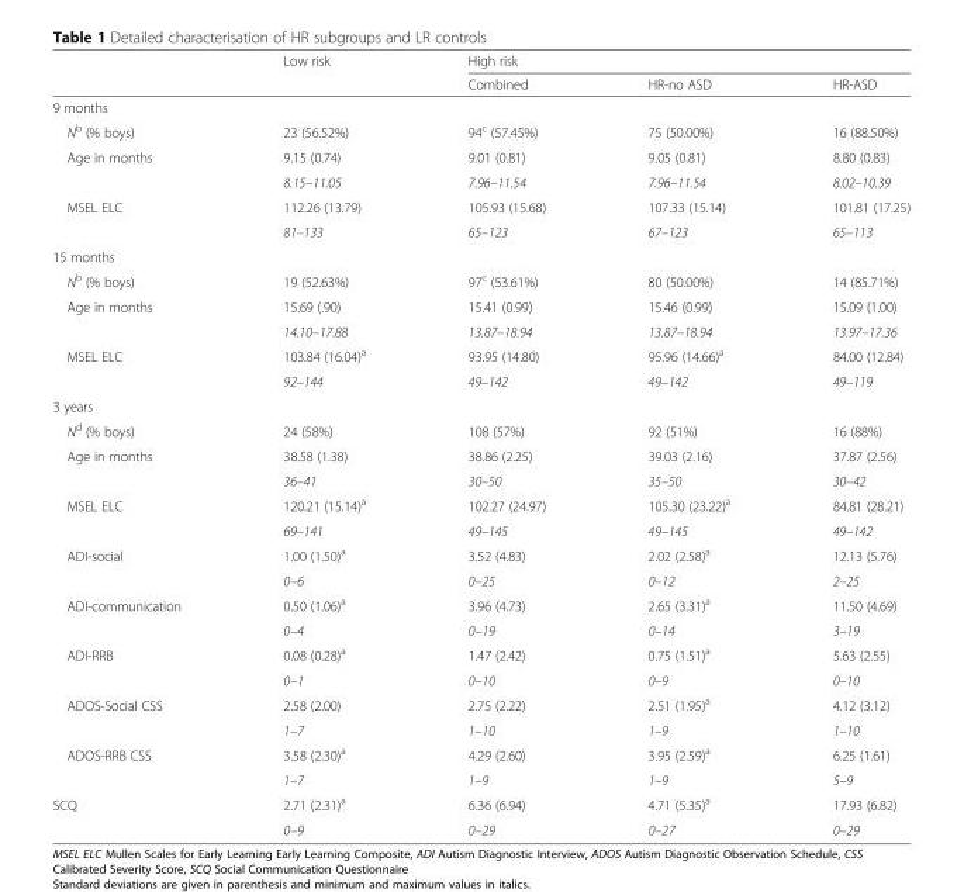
<table><thead><tr><td rowspan="2"></td><td rowspan="2">Low risk</td><td colspan="3">High risk</td></tr><tr><td>Combined</td><td>HR-no ASD</td><td>HR-ASD</td></tr></thead><tbody><tr><td colspan="5">9 months</td></tr><tr><td>N<sup>b</sup> (% boys)</td><td>23 (56.52%)</td><td>94<sup>c</sup> (57.45%)</td><td>75 (50.00%)</td><td>16 (88.50%)</td></tr><tr><td rowspan="2">Age in months</td><td>9.15 (0.74)</td><td>9.01 (0.81)</td><td>9.05 (0.81)</td><td>8.80 (0.83)</td></tr><tr><td>8.15–11.05</td><td>7.96–11.54</td><td>7.96–11.54</td><td>8.02–10.39</td></tr><tr><td rowspan="2">MSEL ELC</td><td>112.26 (13.79)</td><td>105.93 (15.68)</td><td>107.33 (15.14)</td><td>101.81 (17.25)</td></tr><tr><td>81–133</td><td>65–123</td><td>67–123</td><td>65–113</td></tr><tr><td colspan="5">15 months</td></tr><tr><td>N<sup>b</sup> (% boys)</td><td>19 (52.63%)</td><td>97<sup>c</sup> (53.61%)</td><td>80 (50.00%)</td><td>14 (85.71%)</td></tr><tr><td rowspan="2">Age in months</td><td>15.69 (.90)</td><td>15.41 (0.99)</td><td>15.46 (0.99)</td><td>15.09 (1.00)</td></tr><tr><td>14.10–17.88</td><td>13.87–18.94</td><td>13.87–18.94</td><td>13.97–17.36</td></tr><tr><td rowspan="2">MSEL ELC</td><td>103.84 (16.04)<sup>a</sup></td><td>93.95 (14.80)</td><td>95.96 (14.66)<sup>a</sup></td><td>84.00 (12.84)</td></tr><tr><td>92–144</td><td>49–142</td><td>49–142</td><td>49–119</td></tr><tr><td colspan="5">3 years</td></tr><tr><td>N<sup>d</sup> (% boys)</td><td>24 (58%)</td><td>108 (57%)</td><td>92 (51%)</td><td>16 (88%)</td></tr><tr><td rowspan="2">Age in months</td><td>38.58 (1.38)</td><td>38.86 (2.25)</td><td>39.03 (2.16)</td><td>37.87 (2.56)</td></tr><tr><td>36–41</td><td>30–50</td><td>35–50</td><td>30–42</td></tr><tr><td rowspan="2">MSEL ELC</td><td>120.21 (15.14)<sup>a</sup></td><td>102.27 (24.97)</td><td>105.30 (23.22)<sup>a</sup></td><td>84.81 (28.21)</td></tr><tr><td>69–141</td><td>49–145</td><td>49–145</td><td>49–142</td></tr><tr><td rowspan="2">ADI-social</td><td>1.00 (1.50)<sup>a</sup></td><td>3.52 (4.83)</td><td>2.02 (2.58)<sup>a</sup></td><td>12.13 (5.76)</td></tr><tr><td>0–6</td><td>0–25</td><td>0–12</td><td>2–25</td></tr><tr><td rowspan="2">ADI-communication</td><td>0.50 (1.06)<sup>a</sup></td><td>3.96 (4.73)</td><td>2.65 (3.31)<sup>a</sup></td><td>11.50 (4.69)</td></tr><tr><td>0–4</td><td>0–19</td><td>0–14</td><td>3–19</td></tr><tr><td rowspan="2">ADI-RRB</td><td>0.08 (0.28)<sup>a</sup></td><td>1.47 (2.42)</td><td>0.75 (1.51)<sup>a</sup></td><td>5.63 (2.55)</td></tr><tr><td>0–1</td><td>0–10</td><td>0–9</td><td>0–10</td></tr><tr><td rowspan="2">ADOS-Social CSS</td><td>2.58 (2.00)</td><td>2.75 (2.22)</td><td>2.51 (1.95)<sup>a</sup></td><td>4.12 (3.12)</td></tr><tr><td>1–7</td><td>1–10</td><td>1–9</td><td>1–10</td></tr><tr><td rowspan="2">ADOS-RRB CSS</td><td>3.58 (2.30)<sup>a</sup></td><td>4.29 (2.60)</td><td>3.95 (2.59)<sup>a</sup></td><td>6.25 (1.61)</td></tr><tr><td>1–7</td><td>1–9</td><td>1–9</td><td>5–9</td></tr><tr><td rowspan="2">SCQ</td><td>2.71 (2.31)<sup>a</sup></td><td>6.36 (6.94)</td><td>4.71 (5.35)<sup>a</sup></td><td>17.93 (6.82)</td></tr><tr><td>0–9</td><td>0–29</td><td>0–27</td><td>0–29</td></tr></tbody></table>